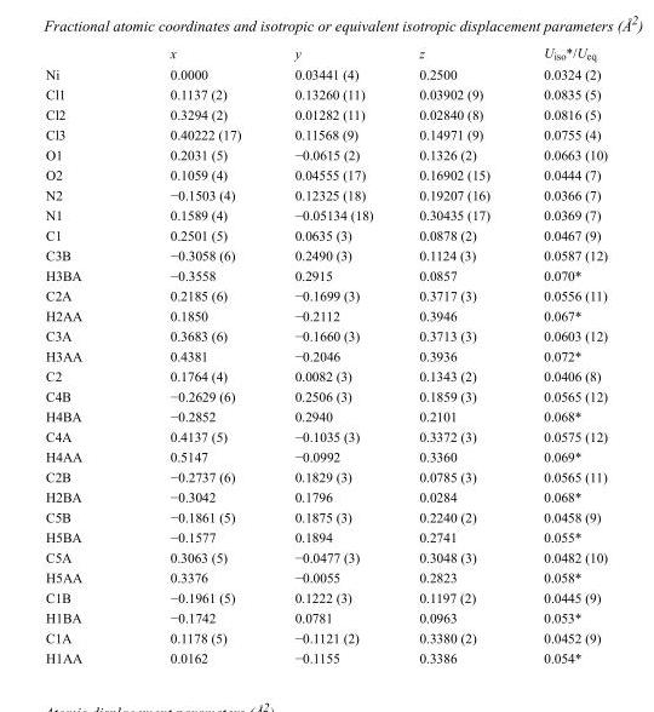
<table><thead><tr><td></td><td>x</td><td>y</td><td>z</td><td>U<sub>iso</sub>*/U<sub>eq</sub></td></tr></thead><tbody><tr><td>Ni</td><td>0.0000</td><td>0.03441 (4)</td><td>0.2500</td><td>0.0324 (2)</td></tr><tr><td>Cl1</td><td>0.1137 (2)</td><td>0.13260 (11)</td><td>0.03902 (9)</td><td>0.0835 (5)</td></tr><tr><td>Cl2</td><td>0.3294 (2)</td><td>0.01282 (11)</td><td>0.02840 (8)</td><td>0.0816 (5)</td></tr><tr><td>Cl3</td><td>0.40222 (17)</td><td>0.11568 (9)</td><td>0.14971 (9)</td><td>0.0755 (4)</td></tr><tr><td>O1</td><td>0.2031 (5)</td><td>−0.0615 (2)</td><td>0.1326 (2)</td><td>0.0663 (10)</td></tr><tr><td>O2</td><td>0.1059 (4)</td><td>0.04555 (17)</td><td>0.16902 (15)</td><td>0.0444 (7)</td></tr><tr><td>N2</td><td>−0.1503 (4)</td><td>0.12325 (18)</td><td>0.19207 (16)</td><td>0.0366 (7)</td></tr><tr><td>N1</td><td>0.1589 (4)</td><td>−0.05134 (18)</td><td>0.30435 (17)</td><td>0.0369 (7)</td></tr><tr><td>C1</td><td>0.2501 (5)</td><td>0.0635 (3)</td><td>0.0878 (2)</td><td>0.0467 (9)</td></tr><tr><td>C3B</td><td>−0.3058 (6)</td><td>0.2490 (3)</td><td>0.1124 (3)</td><td>0.0587 (12)</td></tr><tr><td>H3BA</td><td>−0.3558</td><td>0.2915</td><td>0.0857</td><td>0.070*</td></tr><tr><td>C2A</td><td>0.2185 (6)</td><td>−0.1699 (3)</td><td>0.3717 (3)</td><td>0.0556 (11)</td></tr><tr><td>H2AA</td><td>0.1850</td><td>−0.2112</td><td>0.3946</td><td>0.067*</td></tr><tr><td>C3A</td><td>0.3683 (6)</td><td>−0.1660 (3)</td><td>0.3713 (3)</td><td>0.0603 (12)</td></tr><tr><td>H3AA</td><td>0.4381</td><td>−0.2046</td><td>0.3936</td><td>0.072*</td></tr><tr><td>C2</td><td>0.1764 (4)</td><td>0.0082 (3)</td><td>0.1343 (2)</td><td>0.0406 (8)</td></tr><tr><td>C4B</td><td>−0.2629 (6)</td><td>0.2506 (3)</td><td>0.1859 (3)</td><td>0.0565 (12)</td></tr><tr><td>H4BA</td><td>−0.2852</td><td>0.2940</td><td>0.2101</td><td>0.068*</td></tr><tr><td>C4A</td><td>0.4137 (5)</td><td>−0.1035 (3)</td><td>0.3372 (3)</td><td>0.0575 (12)</td></tr><tr><td>H4AA</td><td>0.5147</td><td>−0.0992</td><td>0.3360</td><td>0.069*</td></tr><tr><td>C2B</td><td>−0.2737 (6)</td><td>0.1829 (3)</td><td>0.0785 (3)</td><td>0.0565 (11)</td></tr><tr><td>H2BA</td><td>−0.3042</td><td>0.1796</td><td>0.0284</td><td>0.068*</td></tr><tr><td>C5B</td><td>−0.1861 (5)</td><td>0.1875 (3)</td><td>0.2240 (2)</td><td>0.0458 (9)</td></tr><tr><td>H5BA</td><td>−0.1577</td><td>0.1894</td><td>0.2741</td><td>0.055*</td></tr><tr><td>C5A</td><td>0.3063 (5)</td><td>−0.0477 (3)</td><td>0.3048 (3)</td><td>0.0482 (10)</td></tr><tr><td>H5AA</td><td>0.3376</td><td>−0.0055</td><td>0.2823</td><td>0.058*</td></tr><tr><td>C1B</td><td>−0.1961 (5)</td><td>0.1222 (3)</td><td>0.1197 (2)</td><td>0.0445 (9)</td></tr><tr><td>H1BA</td><td>−0.1742</td><td>0.0781</td><td>0.0963</td><td>0.053*</td></tr><tr><td>C1A</td><td>0.1178 (5)</td><td>−0.1121 (2)</td><td>0.3380 (2)</td><td>0.0452 (9)</td></tr><tr><td>H1AA</td><td>0.0162</td><td>−0.1155</td><td>0.3386</td><td>0.054*</td></tr></tbody></table>